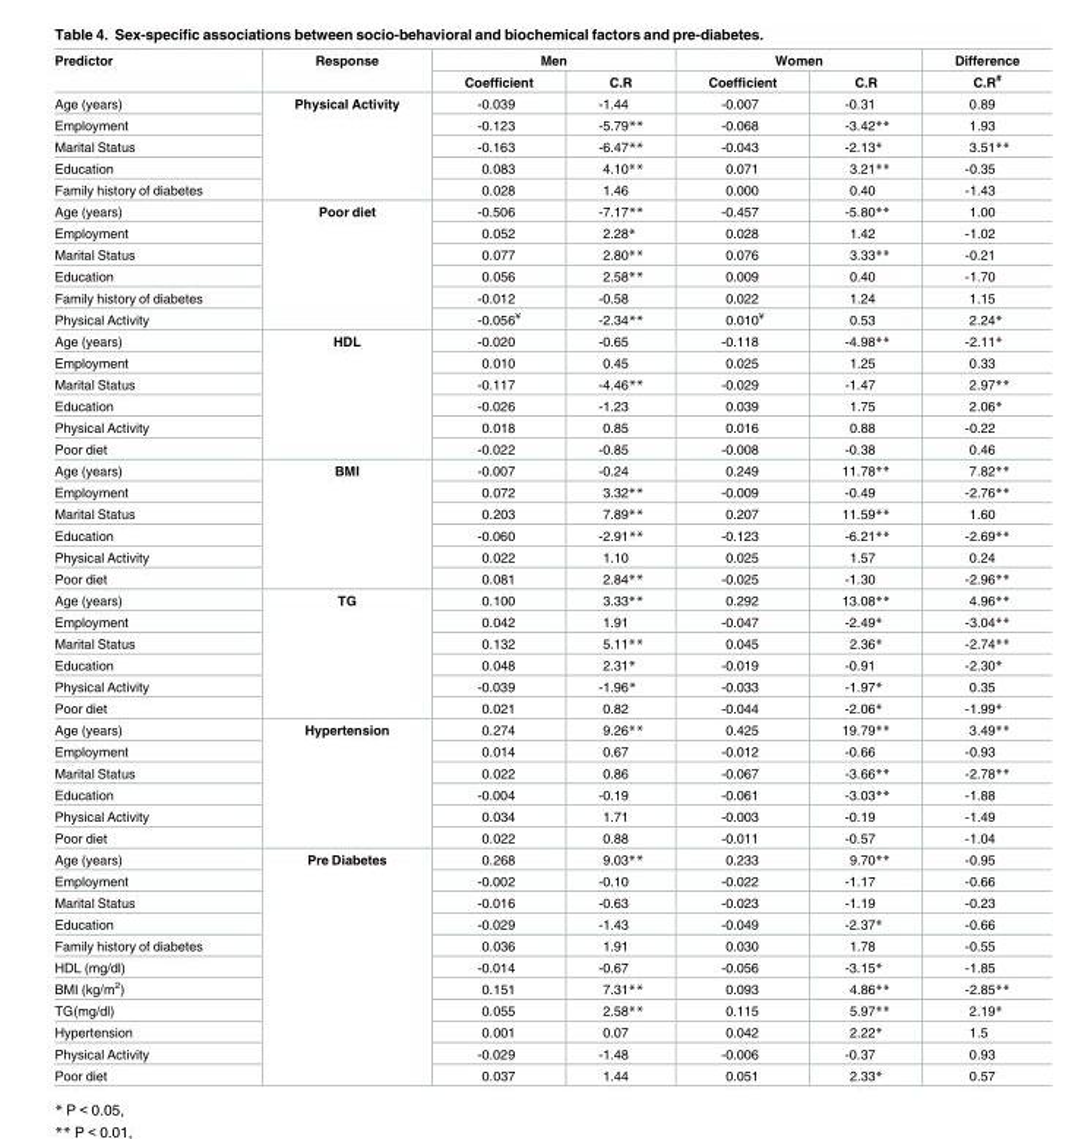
<table><thead><tr><td rowspan="2">Predictor</td><td rowspan="2">Response</td><td colspan="2">Men</td><td colspan="2">Women</td><td rowspan="2">Difference C.R<sup>#</sup></td></tr><tr><td>Coefficient</td><td>C.R</td><td>Coefficient</td><td>C.R</td></tr></thead><tbody><tr><td>Age (years)</td><td rowspan="5">Physical Activity</td><td>-0.039</td><td>-1.44</td><td>-0.007</td><td>-0.31</td><td>0.89</td></tr><tr><td>Employment</td><td>-0.123</td><td>-5.79**</td><td>-0.068</td><td>-3.42**</td><td>1.93</td></tr><tr><td>Marital Status</td><td>-0.163</td><td>-6.47**</td><td>-0.043</td><td>-2.13*</td><td>3.51**</td></tr><tr><td>Education</td><td>0.083</td><td>4.10**</td><td>0.071</td><td>3.21**</td><td>-0.35</td></tr><tr><td>Family history of diabetes</td><td>0.028</td><td>1.46</td><td>0.000</td><td>0.40</td><td>-1.43</td></tr><tr><td>Age (years)</td><td rowspan="6">Poor diet</td><td>-0.506</td><td>-7.17**</td><td>-0.457</td><td>-5.80**</td><td>1.00</td></tr><tr><td>Employment</td><td>0.052</td><td>2.28*</td><td>0.028</td><td>1.42</td><td>-1.02</td></tr><tr><td>Marital Status</td><td>0.077</td><td>2.80**</td><td>0.076</td><td>3.33**</td><td>-0.21</td></tr><tr><td>Education</td><td>0.056</td><td>2.58**</td><td>0.009</td><td>0.40</td><td>-1.70</td></tr><tr><td>Family history of diabetes</td><td>-0.012</td><td>-0.58</td><td>0.022</td><td>1.24</td><td>1.15</td></tr><tr><td>Physical Activity</td><td>-0.056<sup>¥</sup></td><td>-2.34**</td><td>0.010<sup>¥</sup></td><td>0.53</td><td>2.24*</td></tr><tr><td>Age (years)</td><td rowspan="6">HDL</td><td>-0.020</td><td>-0.65</td><td>-0.118</td><td>-4.98**</td><td>-2.11*</td></tr><tr><td>Employment</td><td>0.010</td><td>0.45</td><td>0.025</td><td>1.25</td><td>0.33</td></tr><tr><td>Marital Status</td><td>-0.117</td><td>-4.46**</td><td>-0.029</td><td>-1.47</td><td>2.97**</td></tr><tr><td>Education</td><td>-0.026</td><td>-1.23</td><td>0.039</td><td>1.75</td><td>2.06*</td></tr><tr><td>Physical Activity</td><td>0.018</td><td>0.85</td><td>0.016</td><td>0.88</td><td>-0.22</td></tr><tr><td>Poor diet</td><td>-0.022</td><td>-0.85</td><td>-0.008</td><td>-0.38</td><td>0.46</td></tr><tr><td>Age (years)</td><td rowspan="6">BMI</td><td>-0.007</td><td>-0.24</td><td>0.249</td><td>11.78**</td><td>7.82**</td></tr><tr><td>Employment</td><td>0.072</td><td>3.32**</td><td>-0.009</td><td>-0.49</td><td>-2.76**</td></tr><tr><td>Marital Status</td><td>0.203</td><td>7.89**</td><td>0.207</td><td>11.59**</td><td>1.60</td></tr><tr><td>Education</td><td>-0.060</td><td>-2.91**</td><td>-0.123</td><td>-6.21**</td><td>-2.69**</td></tr><tr><td>Physical Activity</td><td>0.022</td><td>1.10</td><td>0.025</td><td>1.57</td><td>0.24</td></tr><tr><td>Poor diet</td><td>0.081</td><td>2.84**</td><td>-0.025</td><td>-1.30</td><td>-2.96**</td></tr><tr><td>Age (years)</td><td rowspan="6">TG</td><td>0.100</td><td>3.33**</td><td>0.292</td><td>13.08**</td><td>4.96**</td></tr><tr><td>Employment</td><td>0.042</td><td>1.91</td><td>-0.047</td><td>-2.49*</td><td>-3.04**</td></tr><tr><td>Marital Status</td><td>0.132</td><td>5.11**</td><td>0.045</td><td>2.36*</td><td>-2.74**</td></tr><tr><td>Education</td><td>0.048</td><td>2.31*</td><td>-0.019</td><td>-0.91</td><td>-2.30*</td></tr><tr><td>Physical Activity</td><td>-0.039</td><td>-1.96*</td><td>-0.033</td><td>-1.97*</td><td>0.35</td></tr><tr><td>Poor diet</td><td>0.021</td><td>0.82</td><td>-0.044</td><td>-2.06*</td><td>-1.99*</td></tr><tr><td>Age (years)</td><td rowspan="6">Hypertension</td><td>0.274</td><td>9.26**</td><td>0.425</td><td>19.79**</td><td>3.49**</td></tr><tr><td>Employment</td><td>0.014</td><td>0.67</td><td>-0.012</td><td>-0.66</td><td>-0.93</td></tr><tr><td>Marital Status</td><td>0.022</td><td>0.86</td><td>-0.067</td><td>-3.66**</td><td>-2.78**</td></tr><tr><td>Education</td><td>-0.004</td><td>-0.19</td><td>-0.061</td><td>-3.03**</td><td>-1.88</td></tr><tr><td>Physical Activity</td><td>0.034</td><td>1.71</td><td>-0.003</td><td>-0.19</td><td>-1.49</td></tr><tr><td>Poor diet</td><td>0.022</td><td>0.88</td><td>-0.011</td><td>-0.57</td><td>-1.04</td></tr><tr><td>Age (years)</td><td rowspan="11">Pre Diabetes</td><td>0.268</td><td>9.03**</td><td>0.233</td><td>9.70**</td><td>-0.95</td></tr><tr><td>Employment</td><td>-0.002</td><td>-0.10</td><td>-0.022</td><td>-1.17</td><td>-0.66</td></tr><tr><td>Marital Status</td><td>-0.016</td><td>-0.63</td><td>-0.023</td><td>-1.19</td><td>-0.23</td></tr><tr><td>Education</td><td>-0.029</td><td>-1.43</td><td>-0.049</td><td>-2.37*</td><td>-0.66</td></tr><tr><td>Family history of diabetes</td><td>0.036</td><td>1.91</td><td>0.030</td><td>1.78</td><td>-0.55</td></tr><tr><td>HDL (mg/dl)</td><td>-0.014</td><td>-0.67</td><td>-0.056</td><td>-3.15*</td><td>-1.85</td></tr><tr><td>BMI (kg/m<sup>2</sup>)</td><td>0.151</td><td>7.31**</td><td>0.093</td><td>4.86**</td><td>-2.85**</td></tr><tr><td>TG(mg/dl)</td><td>0.055</td><td>2.58**</td><td>0.115</td><td>5.97**</td><td>2.19*</td></tr><tr><td>Hypertension</td><td>0.001</td><td>0.07</td><td>0.042</td><td>2.22*</td><td>1.5</td></tr><tr><td>Physical Activity</td><td>-0.029</td><td>-1.48</td><td>-0.006</td><td>-0.37</td><td>0.93</td></tr><tr><td>Poor diet</td><td>0.037</td><td>1.44</td><td>0.051</td><td>2.33*</td><td>0.57</td></tr></tbody></table>